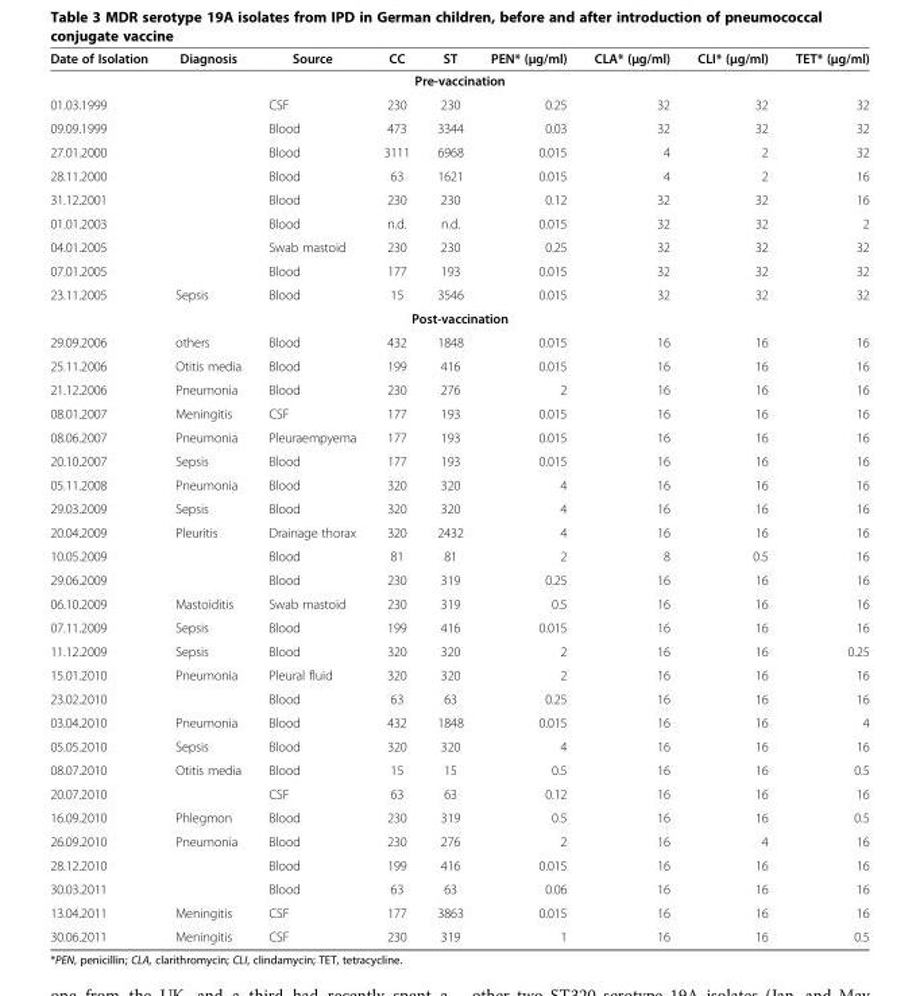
<table><thead><tr><td>Date of Isolation</td><td>Diagnosis</td><td>Source</td><td>CC</td><td>ST</td><td>PEN* (μg/ml)</td><td>CLA* (μg/ml)</td><td>CLI* (μg/ml)</td><td>TET* (μg/ml)</td></tr></thead><tbody><tr><td colspan="9">Pre-vaccination</td></tr><tr><td>01.03.1999</td><td></td><td>CSF</td><td>230</td><td>230</td><td>0.25</td><td>32</td><td>32</td><td>32</td></tr><tr><td>09.09.1999</td><td></td><td>Blood</td><td>473</td><td>3344</td><td>0.03</td><td>32</td><td>32</td><td>32</td></tr><tr><td>27.01.2000</td><td></td><td>Blood</td><td>3111</td><td>6968</td><td>0.015</td><td>4</td><td>2</td><td>32</td></tr><tr><td>28.11.2000</td><td></td><td>Blood</td><td>63</td><td>1621</td><td>0.015</td><td>4</td><td>2</td><td>16</td></tr><tr><td>31.12.2001</td><td></td><td>Blood</td><td>230</td><td>230</td><td>0.12</td><td>32</td><td>32</td><td>16</td></tr><tr><td>01.01.2003</td><td></td><td>Blood</td><td>n.d.</td><td>n.d.</td><td>0.015</td><td>32</td><td>32</td><td>2</td></tr><tr><td>04.01.2005</td><td></td><td>Swab mastoid</td><td>230</td><td>230</td><td>0.25</td><td>32</td><td>32</td><td>32</td></tr><tr><td>07.01.2005</td><td></td><td>Blood</td><td>177</td><td>193</td><td>0.015</td><td>32</td><td>32</td><td>32</td></tr><tr><td>23.11.2005</td><td>Sepsis</td><td>Blood</td><td>15</td><td>3546</td><td>0.015</td><td>32</td><td>32</td><td>32</td></tr><tr><td colspan="9">Post-vaccination</td></tr><tr><td>29.09.2006</td><td>others</td><td>Blood</td><td>432</td><td>1848</td><td>0.015</td><td>16</td><td>16</td><td>16</td></tr><tr><td>25.11.2006</td><td>Otitis media</td><td>Blood</td><td>199</td><td>416</td><td>0.015</td><td>16</td><td>16</td><td>16</td></tr><tr><td>21.12.2006</td><td>Pneumonia</td><td>Blood</td><td>230</td><td>276</td><td>2</td><td>16</td><td>16</td><td>16</td></tr><tr><td>08.01.2007</td><td>Meningitis</td><td>CSF</td><td>177</td><td>193</td><td>0.015</td><td>16</td><td>16</td><td>16</td></tr><tr><td>08.06.2007</td><td>Pneumonia</td><td>Pleuraempyema</td><td>177</td><td>193</td><td>0.015</td><td>16</td><td>16</td><td>16</td></tr><tr><td>20.10.2007</td><td>Sepsis</td><td>Blood</td><td>177</td><td>193</td><td>0.015</td><td>16</td><td>16</td><td>16</td></tr><tr><td>05.11.2008</td><td>Pneumonia</td><td>Blood</td><td>320</td><td>320</td><td>4</td><td>16</td><td>16</td><td>16</td></tr><tr><td>29.03.2009</td><td>Sepsis</td><td>Blood</td><td>320</td><td>320</td><td>4</td><td>16</td><td>16</td><td>16</td></tr><tr><td>20.04.2009</td><td>Pleuritis</td><td>Drainage thorax</td><td>320</td><td>2432</td><td>4</td><td>16</td><td>16</td><td>16</td></tr><tr><td>10.05.2009</td><td></td><td>Blood</td><td>81</td><td>81</td><td>2</td><td>8</td><td>0.5</td><td>16</td></tr><tr><td>29.06.2009</td><td></td><td>Blood</td><td>230</td><td>319</td><td>0.25</td><td>16</td><td>16</td><td>16</td></tr><tr><td>06.10.2009</td><td>Mastoiditis</td><td>Swab mastoid</td><td>230</td><td>319</td><td>0.5</td><td>16</td><td>16</td><td>16</td></tr><tr><td>07.11.2009</td><td>Sepsis</td><td>Blood</td><td>199</td><td>416</td><td>0.015</td><td>16</td><td>16</td><td>16</td></tr><tr><td>11.12.2009</td><td>Sepsis</td><td>Blood</td><td>320</td><td>320</td><td>2</td><td>16</td><td>16</td><td>0.25</td></tr><tr><td>15.01.2010</td><td>Pneumonia</td><td>Pleural fluid</td><td>320</td><td>320</td><td>2</td><td>16</td><td>16</td><td>16</td></tr><tr><td>23.02.2010</td><td></td><td>Blood</td><td>63</td><td>63</td><td>0.25</td><td>16</td><td>16</td><td>16</td></tr><tr><td>03.04.2010</td><td>Pneumonia</td><td>Blood</td><td>432</td><td>1848</td><td>0.015</td><td>16</td><td>16</td><td>4</td></tr><tr><td>05.05.2010</td><td>Sepsis</td><td>Blood</td><td>320</td><td>320</td><td>4</td><td>16</td><td>16</td><td>16</td></tr><tr><td>08.07.2010</td><td>Otitis media</td><td>Blood</td><td>15</td><td>15</td><td>0.5</td><td>16</td><td>16</td><td>0.5</td></tr><tr><td>20.07.2010</td><td></td><td>CSF</td><td>63</td><td>63</td><td>0.12</td><td>16</td><td>16</td><td>16</td></tr><tr><td>16.09.2010</td><td>Phlegmon</td><td>Blood</td><td>230</td><td>319</td><td>0.5</td><td>16</td><td>16</td><td>0.5</td></tr><tr><td>26.09.2010</td><td>Pneumonia</td><td>Blood</td><td>230</td><td>276</td><td>2</td><td>16</td><td>4</td><td>16</td></tr><tr><td>28.12.2010</td><td></td><td>Blood</td><td>199</td><td>416</td><td>0.015</td><td>16</td><td>16</td><td>16</td></tr><tr><td>30.03.2011</td><td></td><td>Blood</td><td>63</td><td>63</td><td>0.06</td><td>16</td><td>16</td><td>16</td></tr><tr><td>13.04.2011</td><td>Meningitis</td><td>CSF</td><td>177</td><td>3863</td><td>0.015</td><td>16</td><td>16</td><td>16</td></tr><tr><td>30.06.2011</td><td>Meningitis</td><td>CSF</td><td>230</td><td>319</td><td>1</td><td>16</td><td>16</td><td>0.5</td></tr></tbody></table>